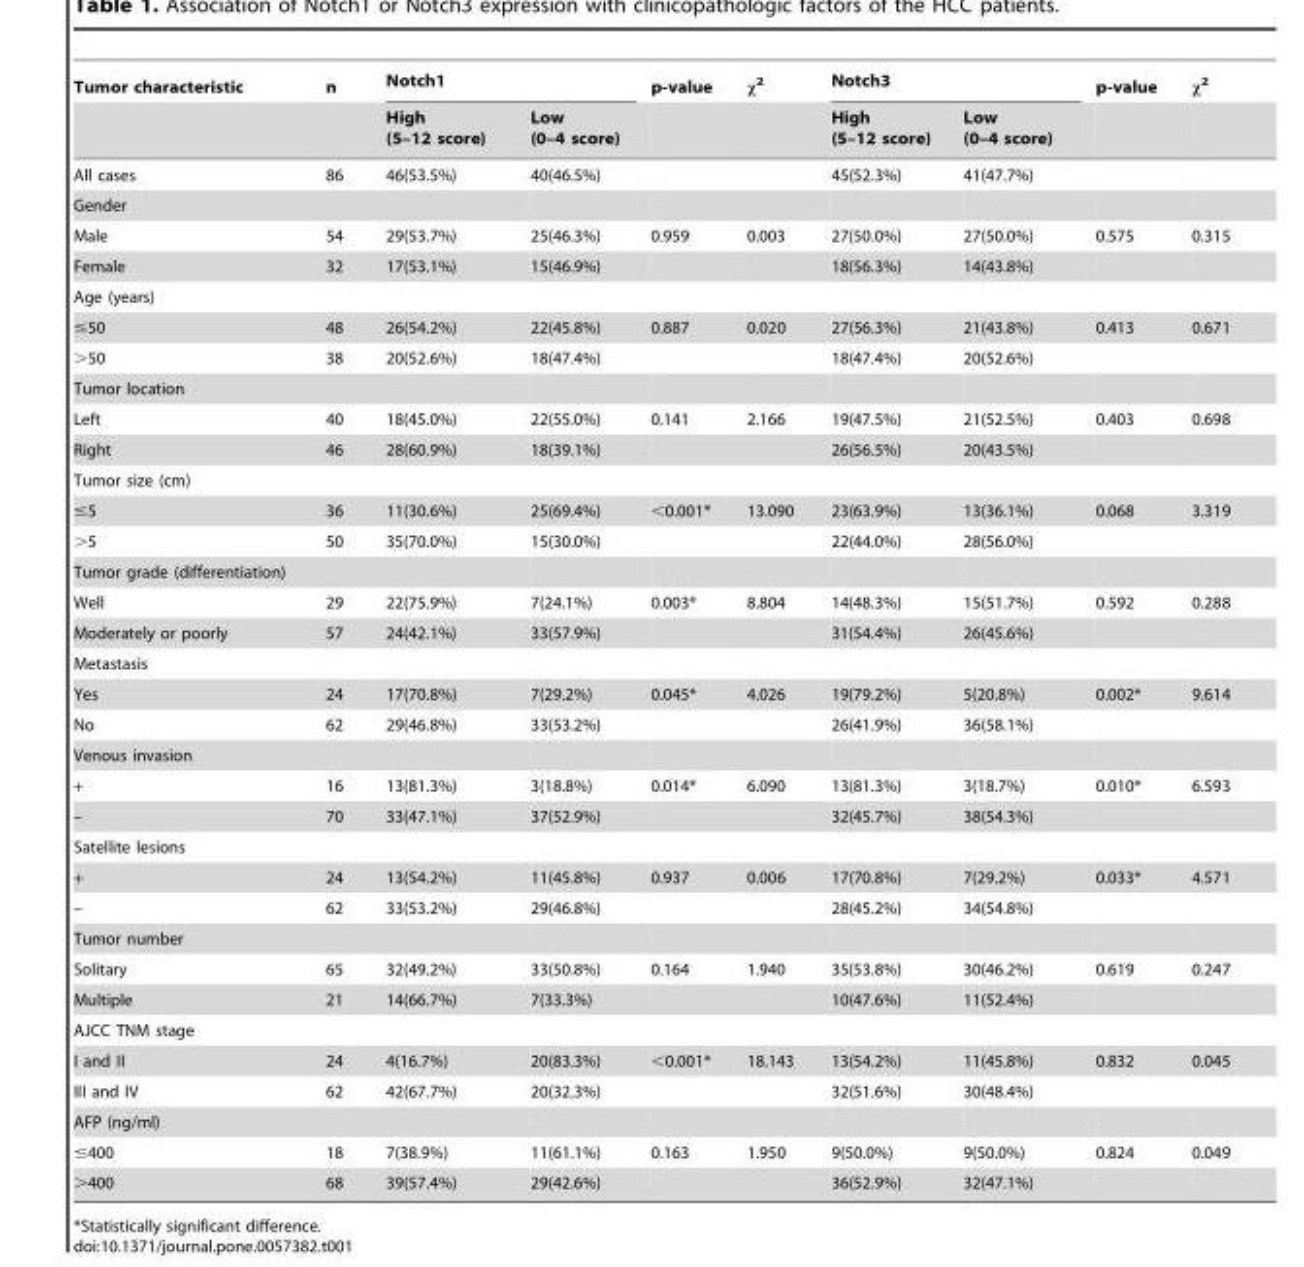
<table><thead><tr><td rowspan="2">Tumor characteristic</td><td rowspan="2">n</td><td colspan="2">Notch1</td><td rowspan="2">p-value</td><td rowspan="2">χ2</td><td colspan="2">Notch3</td><td rowspan="2">p-value</td><td rowspan="2">χ2</td></tr><tr><td>High (5–12 score)</td><td>Low (0–4 score)</td><td>High (5–12 score)</td><td>Low (0–4 score)</td></tr></thead><tbody><tr><td>All cases</td><td>86</td><td>46(53.5%)</td><td>40(46.5%)</td><td></td><td></td><td>45(52.3%)</td><td>41(47.7%)</td><td></td><td></td></tr><tr><td colspan="10">Gender</td></tr><tr><td>Male</td><td>54</td><td>29(53.7%)</td><td>25(46.3%)</td><td>0.959</td><td>0.003</td><td>27(50.0%)</td><td>27(50.0%)</td><td>0.575</td><td>0.315</td></tr><tr><td>Female</td><td>32</td><td>17(53.1%)</td><td>15(46.9%)</td><td></td><td></td><td>18(56.3%)</td><td>14(43.8%)</td><td></td><td></td></tr><tr><td colspan="10">Age (years)</td></tr><tr><td>≤50</td><td>48</td><td>26(54.2%)</td><td>22(45.8%)</td><td>0.887</td><td>0.020</td><td>27(56.3%)</td><td>21(43.8%)</td><td>0.413</td><td>0.671</td></tr><tr><td>&gt;50</td><td>38</td><td>20(52.6%)</td><td>18(47.4%)</td><td></td><td></td><td>18(47.4%)</td><td>20(52.6%)</td><td></td><td></td></tr><tr><td colspan="10">Tumor location</td></tr><tr><td>Left</td><td>40</td><td>18(45.0%)</td><td>22(55.0%)</td><td>0.141</td><td>2.166</td><td>19(47.5%)</td><td>21(52.5%)</td><td>0.403</td><td>0.698</td></tr><tr><td>Right</td><td>46</td><td>28(60.9%)</td><td>18(39.1%)</td><td></td><td></td><td>26(56.5%)</td><td>20(43.5%)</td><td></td><td></td></tr><tr><td colspan="10">Tumor size (cm)</td></tr><tr><td>≤5</td><td>36</td><td>11(30.6%)</td><td>25(69.4%)</td><td>&lt;0.001*</td><td>13.090</td><td>23(63.9%)</td><td>13(36.1%)</td><td>0.068</td><td>3.319</td></tr><tr><td>&gt;5</td><td>50</td><td>35(70.0%)</td><td>15(30.0%)</td><td></td><td></td><td>22(44.0%)</td><td>28(56.0%)</td><td></td><td></td></tr><tr><td colspan="10">Tumor grade (differentiation)</td></tr><tr><td>Well</td><td>29</td><td>22(75.9%)</td><td>7(24.1%)</td><td>0.003*</td><td>8.804</td><td>14(48.3%)</td><td>15(51.7%)</td><td>0.592</td><td>0.288</td></tr><tr><td>Moderately or poorly</td><td>57</td><td>24(42.1%)</td><td>33(57.9%)</td><td></td><td></td><td>31(54.4%)</td><td>26(45.6%)</td><td></td><td></td></tr><tr><td colspan="10">Metastasis</td></tr><tr><td>Yes</td><td>24</td><td>17(70.8%)</td><td>7(29.2%)</td><td>0.045*</td><td>4.026</td><td>19(79.2%)</td><td>5(20.8%)</td><td>0.002*</td><td>9.614</td></tr><tr><td>No</td><td>62</td><td>29(46.8%)</td><td>33(53.2%)</td><td></td><td></td><td>26(41.9%)</td><td>36(58.1%)</td><td></td><td></td></tr><tr><td colspan="10">Venous invasion</td></tr><tr><td>+</td><td>16</td><td>13(81.3%)</td><td>3(18.8%)</td><td>0.014*</td><td>6.090</td><td>13(81.3%)</td><td>3(18.7%)</td><td>0.010*</td><td>6.593</td></tr><tr><td>–</td><td>70</td><td>33(47.1%)</td><td>37(52.9%)</td><td></td><td></td><td>32(45.7%)</td><td>38(54.3%)</td><td></td><td></td></tr><tr><td colspan="10">Satellite lesions</td></tr><tr><td>+</td><td>24</td><td>13(54.2%)</td><td>11(45.8%)</td><td>0.937</td><td>0.006</td><td>17(70.8%)</td><td>7(29.2%)</td><td>0.033*</td><td>4.571</td></tr><tr><td>–</td><td>62</td><td>33(53.2%)</td><td>29(46.8%)</td><td></td><td></td><td>28(45.2%)</td><td>34(54.8%)</td><td></td><td></td></tr><tr><td colspan="10">Tumor number</td></tr><tr><td>Solitary</td><td>65</td><td>32(49.2%)</td><td>33(50.8%)</td><td>0.164</td><td>1.940</td><td>35(53.8%)</td><td>30(46.2%)</td><td>0.619</td><td>0.247</td></tr><tr><td>Multiple</td><td>21</td><td>14(66.7%)</td><td>7(33.3%)</td><td></td><td></td><td>10(47.6%)</td><td>11(52.4%)</td><td></td><td></td></tr><tr><td colspan="10">AJCC TNM stage</td></tr><tr><td>I and II</td><td>24</td><td>4(16.7%)</td><td>20(83.3%)</td><td>&lt;0.001*</td><td>18.143</td><td>13(54.2%)</td><td>11(45.8%)</td><td>0.832</td><td>0.045</td></tr><tr><td>III and IV</td><td>62</td><td>42(67.7%)</td><td>20(32.3%)</td><td></td><td></td><td>32(51.6%)</td><td>30(48.4%)</td><td></td><td></td></tr><tr><td colspan="10">AFP (ng/ml)</td></tr><tr><td>≤400</td><td>18</td><td>7(38.9%)</td><td>11(61.1%)</td><td>0.163</td><td>1.950</td><td>9(50.0%)</td><td>9(50.0%)</td><td>0.824</td><td>0.049</td></tr><tr><td>&gt;400</td><td>68</td><td>39(57.4%)</td><td>29(42.6%)</td><td></td><td></td><td>36(52.9%)</td><td>32(47.1%)</td><td></td><td></td></tr></tbody></table>